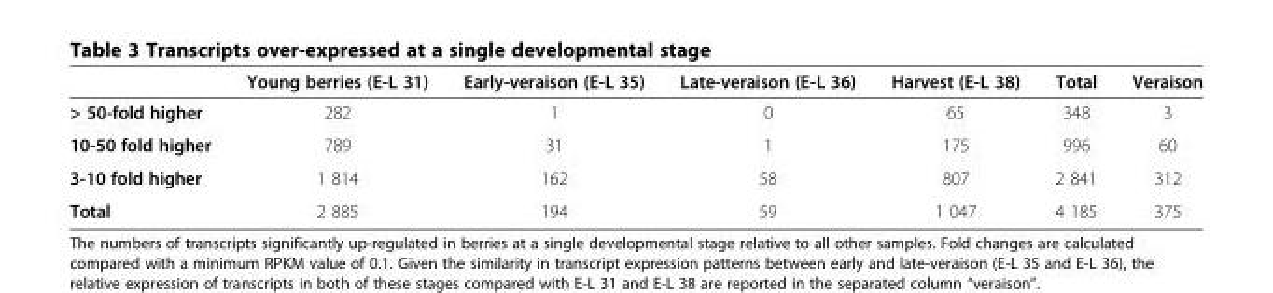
<table><thead><tr><td></td><td>Young berries (E-L 31)</td><td>Early-veraison (E-L 35)</td><td>Late-veraison (E-L 36)</td><td>Harvest (E-L 38)</td><td>Total</td><td>Veraison</td></tr></thead><tbody><tr><td>&gt; 50-fold higher</td><td>282</td><td>1</td><td>0</td><td>65</td><td>348</td><td>3</td></tr><tr><td>10-50 fold higher</td><td>789</td><td>31</td><td>1</td><td>175</td><td>996</td><td>60</td></tr><tr><td>3-10 fold higher</td><td>1 814</td><td>162</td><td>58</td><td>807</td><td>2 841</td><td>312</td></tr><tr><td>Total</td><td>2 885</td><td>194</td><td>59</td><td>1 047</td><td>4 185</td><td>375</td></tr></tbody></table>